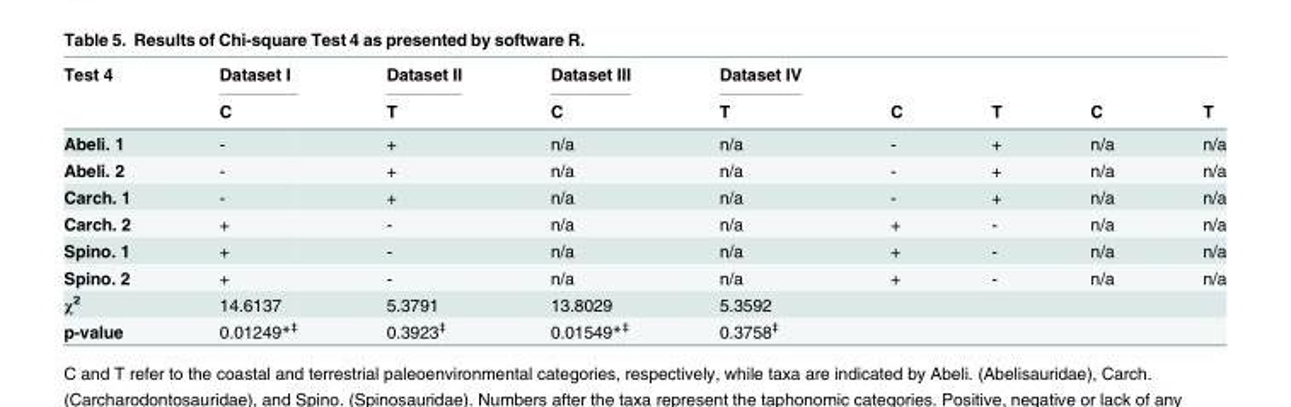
<table><thead><tr><td rowspan="2">Test 4</td><td rowspan="2">Dataset I C</td><td rowspan="2">Dataset II T</td><td rowspan="2">Dataset III C</td><td rowspan="2">Dataset IV T</td><td rowspan="2">C</td><td rowspan="2">T</td><td rowspan="2">C</td><td rowspan="2">T</td></tr><tr></tr></thead><tbody><tr><td>Abeli. 1</td><td>-</td><td>+</td><td>n/a</td><td>n/a</td><td>-</td><td>+</td><td>n/a</td><td>n/a</td></tr><tr><td>Abeli. 2</td><td>-</td><td>+</td><td>n/a</td><td>n/a</td><td>-</td><td>+</td><td>n/a</td><td>n/a</td></tr><tr><td>Carch. 1</td><td>-</td><td>+</td><td>n/a</td><td>n/a</td><td>-</td><td>+</td><td>n/a</td><td>n/a</td></tr><tr><td>Carch. 2</td><td>+</td><td>-</td><td>n/a</td><td>n/a</td><td>+</td><td>-</td><td>n/a</td><td>n/a</td></tr><tr><td>Spino. 1</td><td>+</td><td>-</td><td>n/a</td><td>n/a</td><td>+</td><td>-</td><td>n/a</td><td>n/a</td></tr><tr><td>Spino. 2</td><td>+</td><td>-</td><td>n/a</td><td>n/a</td><td>+</td><td>-</td><td>n/a</td><td>n/a</td></tr><tr><td>χ<sup>2</sup></td><td>14.6137</td><td>5.3791</td><td>13.8029</td><td>5.3592</td><td></td><td></td><td></td><td></td></tr><tr><td>p-value</td><td>0.01249*<sup>‡</sup></td><td>0.3923<sup>‡</sup></td><td>0.01549*<sup>‡</sup></td><td>0.3758<sup>‡</sup></td><td></td><td></td><td></td><td></td></tr></tbody></table>